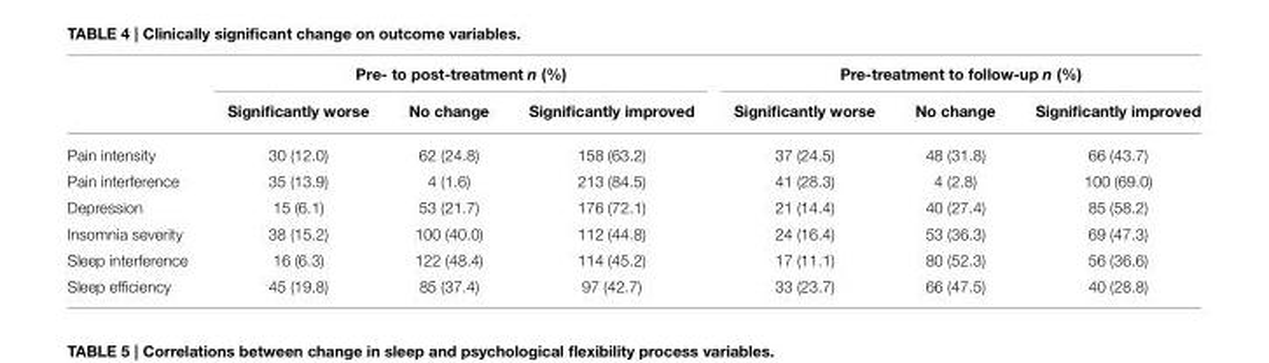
<table><thead><tr><td rowspan="2"></td><td colspan="3">Pre- to post-treatment n (%)</td><td colspan="3">Pre-treatment to follow-up n (%)</td></tr><tr><td>Significantly worse</td><td>No change</td><td>Significantly improved</td><td>Significantly worse</td><td>No change</td><td>Significantly improved</td></tr></thead><tbody><tr><td>Pain intensity</td><td>30 (12.0)</td><td>62 (24.8)</td><td>158 (63.2)</td><td>37 (24.5)</td><td>48 (31.8)</td><td>66 (43.7)</td></tr><tr><td>Pain interference</td><td>35 (13.9)</td><td>4 (1.6)</td><td>213 (84.5)</td><td>41 (28.3)</td><td>4 (2.8)</td><td>100 (69.0)</td></tr><tr><td>Depression</td><td>15 (6.1)</td><td>53 (21.7)</td><td>176 (72.1)</td><td>21 (14.4)</td><td>40 (27.4)</td><td>85 (58.2)</td></tr><tr><td>Insomnia severity</td><td>38 (15.2)</td><td>100 (40.0)</td><td>112 (44.8)</td><td>24 (16.4)</td><td>53 (36.3)</td><td>69 (47.3)</td></tr><tr><td>Sleep interference</td><td>16 (6.3)</td><td>122 (48.4)</td><td>114 (45.2)</td><td>17 (11.1)</td><td>80 (52.3)</td><td>56 (36.6)</td></tr><tr><td>Sleep efficiency</td><td>45 (19.8)</td><td>85 (37.4)</td><td>97 (42.7)</td><td>33 (23.7)</td><td>66 (47.5)</td><td>40 (28.8)</td></tr></tbody></table>